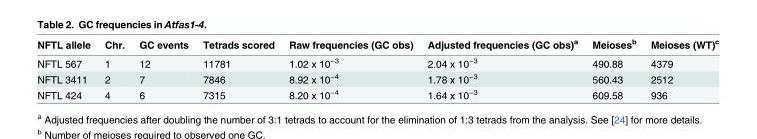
<table><thead><tr><td>NFTL allele</td><td>Chr.</td><td>GC events</td><td>Tetrads scored</td><td>Raw frequencies (GC obs)</td><td>Adjusted frequencies (GC obs)<sup>a</sup></td><td>Meioses<sup>b</sup></td><td>Meioses (WT)<sup>c</sup></td></tr></thead><tbody><tr><td>NFTL 567</td><td>1</td><td>12</td><td>11781</td><td>1.02 x 10<sup>−3</sup></td><td>2.04 x 10<sup>−3</sup></td><td>490.88</td><td>4379</td></tr><tr><td>NFTL 3411</td><td>2</td><td>7</td><td>7846</td><td>8.92 x 10<sup>−4</sup></td><td>1.78 x 10<sup>−3</sup></td><td>560.43</td><td>2512</td></tr><tr><td>NFTL 424</td><td>4</td><td>6</td><td>7315</td><td>8.20 x 10<sup>−4</sup></td><td>1.64 x 10<sup>−3</sup></td><td>609.58</td><td>936</td></tr></tbody></table>